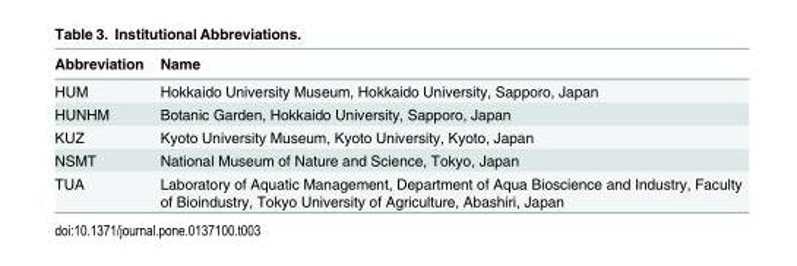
<table><thead><tr><td>Abbreviation</td><td>Name</td></tr></thead><tbody><tr><td>HUM</td><td>Hokkaido University Museum, Hokkaido University, Sapporo, Japan</td></tr><tr><td>HUNHM</td><td>Botanic Garden, Hokkaido University, Sapporo, Japan</td></tr><tr><td>KUZ</td><td>Kyoto University Museum, Kyoto University, Kyoto, Japan</td></tr><tr><td>NSMT</td><td>National Museum of Nature and Science, Tokyo, Japan</td></tr><tr><td>TUA</td><td>Laboratory of Aquatic Management, Department of Aqua Bioscience and Industry, Faculty of Bioindustry, Tokyo University of Agriculture, Abashiri, Japan</td></tr></tbody></table>